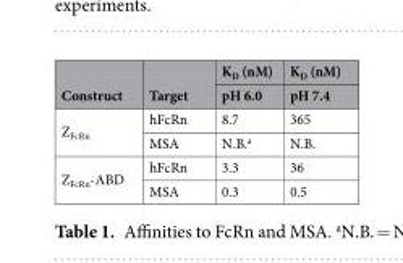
<table><thead><tr><td rowspan="2">Construct</td><td rowspan="2">Target</td><td rowspan="2">K<sub>D</sub> (nM) pH 6.0</td><td rowspan="2">K<sub>D</sub> (nM) pH 7.4</td></tr><tr></tr></thead><tbody><tr><td rowspan="2">Z<sub>FcRn</sub></td><td>hFcRn</td><td>8.7</td><td>365</td></tr><tr><td>MSA</td><td>N.B.<sup>a</sup></td><td>N.B.</td></tr><tr><td rowspan="2">Z<sub>FcRn</sub>-ABD</td><td>hFcRn</td><td>3.3</td><td>36</td></tr><tr><td>MSA</td><td>0.3</td><td>0.5</td></tr></tbody></table>